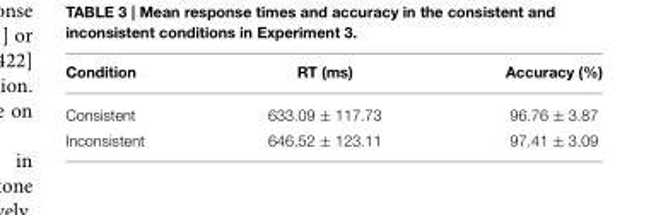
<table><thead><tr><td>Condition</td><td>RT (ms)</td><td>Accuracy (%)</td></tr></thead><tbody><tr><td>Consistent</td><td>633.09 ± 117.73</td><td>96.76 ± 3.87</td></tr><tr><td>Inconsistent</td><td>646.52 ± 123.11</td><td>97.41 ± 3.09</td></tr></tbody></table>